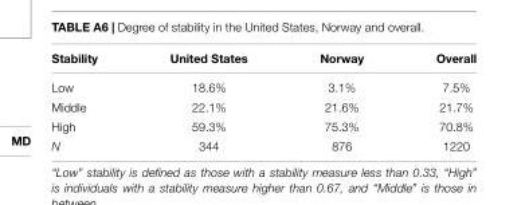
<table><thead><tr><td>Stability</td><td>United States</td><td>Norway</td><td>Overall</td></tr></thead><tbody><tr><td>Low</td><td>18.6%</td><td>3.1%</td><td>7.5%</td></tr><tr><td>Middle</td><td>22.1%</td><td>21.6%</td><td>21.7%</td></tr><tr><td>High</td><td>59.3%</td><td>75.3%</td><td>70.8%</td></tr><tr><td>N</td><td>344</td><td>876</td><td>1220</td></tr></tbody></table>